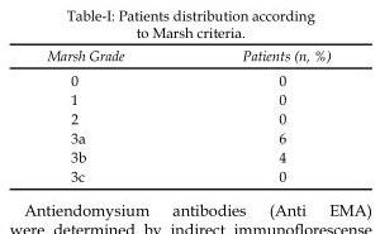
<table><thead><tr><td>Marsh Grade</td><td>Patients (n, %)</td></tr></thead><tbody><tr><td>0</td><td>0</td></tr><tr><td>1</td><td>0</td></tr><tr><td>2</td><td>0</td></tr><tr><td>3a</td><td>6</td></tr><tr><td>3b</td><td>4</td></tr><tr><td>3c</td><td>0</td></tr></tbody></table>